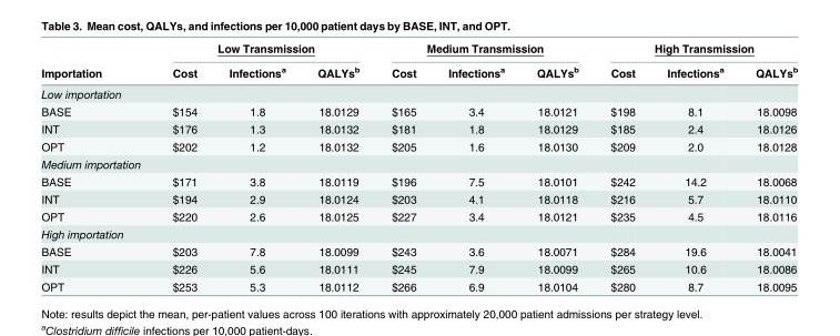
<table><thead><tr><td rowspan="2">Importation</td><td colspan="3">Low Transmission</td><td colspan="3">Medium Transmission</td><td colspan="3">High Transmission</td></tr><tr><td>Cost</td><td>Infections<sup>a</sup></td><td>QALYs<sup>b</sup></td><td>Cost</td><td>Infections<sup>a</sup></td><td>QALYs<sup>b</sup></td><td>Cost</td><td>Infections<sup>a</sup></td><td>QALYs<sup>b</sup></td></tr></thead><tbody><tr><td colspan="10">Low importation</td></tr><tr><td>BASE</td><td>$154</td><td>1.8</td><td>18.0129</td><td>$165</td><td>3.4</td><td>18.0121</td><td>$198</td><td>8.1</td><td>18.0098</td></tr><tr><td>INT</td><td>$176</td><td>1.3</td><td>18.0132</td><td>$181</td><td>1.8</td><td>18.0129</td><td>$185</td><td>2.4</td><td>18.0126</td></tr><tr><td>OPT</td><td>$202</td><td>1.2</td><td>18.0132</td><td>$205</td><td>1.6</td><td>18.0130</td><td>$209</td><td>2.0</td><td>18.0128</td></tr><tr><td colspan="10">Medium importation</td></tr><tr><td>BASE</td><td>$171</td><td>3.8</td><td>18.0119</td><td>$196</td><td>7.5</td><td>18.0101</td><td>$242</td><td>14.2</td><td>18.0068</td></tr><tr><td>INT</td><td>$194</td><td>2.9</td><td>18.0124</td><td>$203</td><td>4.1</td><td>18.0118</td><td>$216</td><td>5.7</td><td>18.0110</td></tr><tr><td>OPT</td><td>$220</td><td>2.6</td><td>18.0125</td><td>$227</td><td>3.4</td><td>18.0121</td><td>$235</td><td>4.5</td><td>18.0116</td></tr><tr><td colspan="10">High importation</td></tr><tr><td>BASE</td><td>$203</td><td>7.8</td><td>18.0099</td><td>$243</td><td>3.6</td><td>18.0071</td><td>$284</td><td>19.6</td><td>18.0041</td></tr><tr><td>INT</td><td>$226</td><td>5.6</td><td>18.0111</td><td>$245</td><td>7.9</td><td>18.0099</td><td>$265</td><td>10.6</td><td>18.0086</td></tr><tr><td>OPT</td><td>$253</td><td>5.3</td><td>18.0112</td><td>$266</td><td>6.9</td><td>18.0104</td><td>$280</td><td>8.7</td><td>18.0095</td></tr></tbody></table>